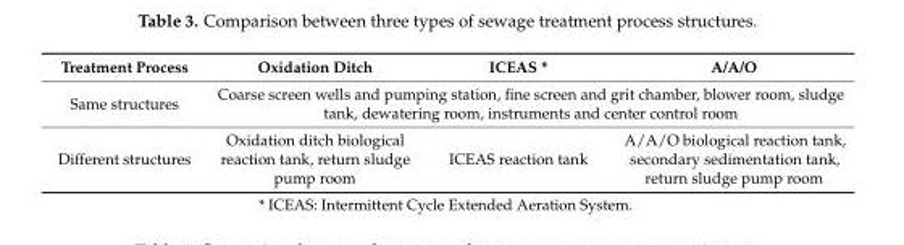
<table><thead><tr><td>Treatment Process</td><td>Oxidation Ditch</td><td>ICEAS *</td><td>A/A/O</td></tr></thead><tbody><tr><td>Same structures</td><td colspan="3">Coarse screen wells and pumping station, fine screen and grit chamber, blower room, sludge tank, dewatering room, instruments and center control room</td></tr><tr><td>Different structures</td><td>Oxidation ditch biological reaction tank, return sludge pump room</td><td>ICEAS reaction tank</td><td>A/A/O biological reaction tank, secondary sedimentation tank, return sludge pump room</td></tr></tbody></table>